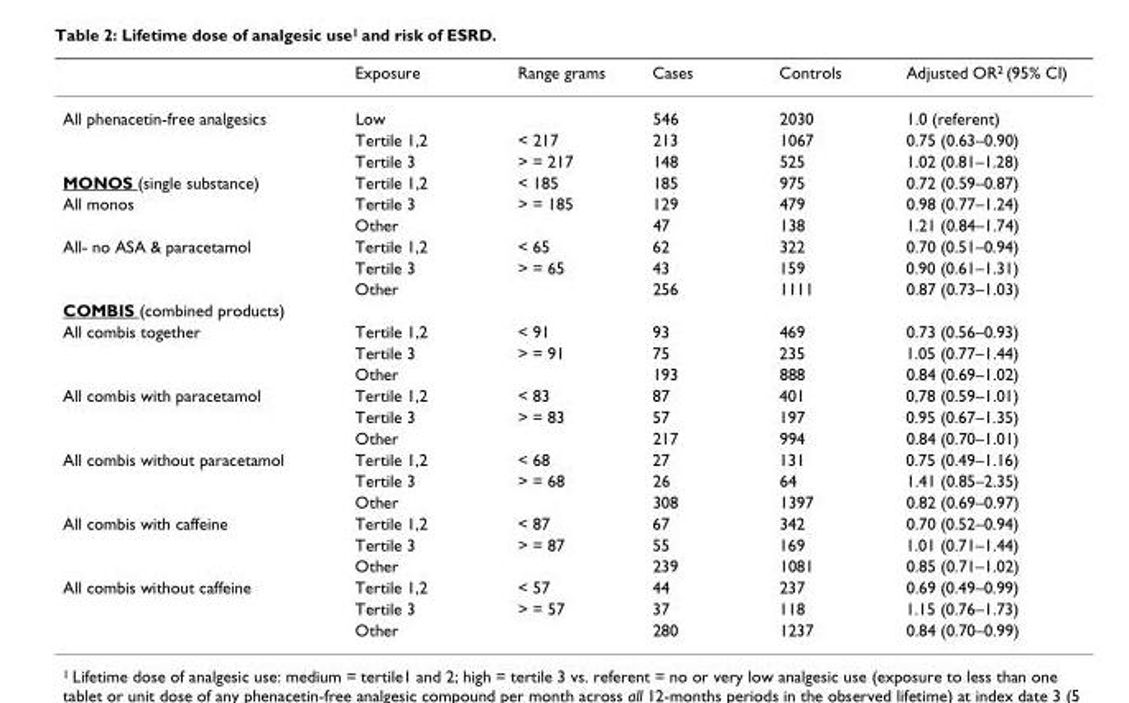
<table><thead><tr><td></td><td>Exposure</td><td>Range grams</td><td>Cases</td><td>Controls</td><td>Adjusted OR<sup>2</sup> (95% CI)</td></tr></thead><tbody><tr><td rowspan="3">All phenacetin-free analgesics</td><td>Low</td><td></td><td>546</td><td>2030</td><td>1.0 (referent)</td></tr><tr><td>Tertile 1,2</td><td>&lt; 217</td><td>213</td><td>1067</td><td>0.75 (0.63–0.90)</td></tr><tr><td>Tertile 3</td><td>&gt; = 217</td><td>148</td><td>525</td><td>1.02 (0.81–1.28)</td></tr><tr><td>MONOS (single substance)</td><td>Tertile 1,2</td><td>&lt; 185</td><td>185</td><td>975</td><td>0.72 (0.59–0.87)</td></tr><tr><td rowspan="2">All monos</td><td>Tertile 3</td><td>&gt; = 185</td><td>129</td><td>479</td><td>0.98 (0.77–1.24)</td></tr><tr><td>Other</td><td></td><td>47</td><td>138</td><td>1.21 (0.84–1.74)</td></tr><tr><td rowspan="3">All- no ASA &amp; paracetamol</td><td>Tertile 1,2</td><td>&lt; 65</td><td>62</td><td>322</td><td>0.70 (0.51–0.94)</td></tr><tr><td>Tertile 3</td><td>&gt; = 65</td><td>43</td><td>159</td><td>0.90 (0.61–1.31)</td></tr><tr><td>Other</td><td></td><td>256</td><td>1111</td><td>0.87 (0.73–1.03)</td></tr><tr><td colspan="6">COMBIS (combined products)</td></tr><tr><td rowspan="3">All combis together</td><td>Tertile 1,2</td><td>&lt; 91</td><td>93</td><td>469</td><td>0.73 (0.56–0.93)</td></tr><tr><td>Tertile 3</td><td>&gt; = 91</td><td>75</td><td>235</td><td>1.05 (0.77–1.44)</td></tr><tr><td>Other</td><td></td><td>193</td><td>888</td><td>0.84 (0.69–1.02)</td></tr><tr><td rowspan="3">All combis with paracetamol</td><td>Tertile 1,2</td><td>&lt; 83</td><td>87</td><td>401</td><td>0,78 (0.59–1.01)</td></tr><tr><td>Tertile 3</td><td>&gt; = 83</td><td>57</td><td>197</td><td>0.95 (0.67–1.35)</td></tr><tr><td>Other</td><td></td><td>217</td><td>994</td><td>0.84 (0.70–1.01)</td></tr><tr><td rowspan="3">All combis without paracetamol</td><td>Tertile 1,2</td><td>&lt; 68</td><td>27</td><td>131</td><td>0.75 (0.49–1.16)</td></tr><tr><td>Tertile 3</td><td>&gt; = 68</td><td>26</td><td>64</td><td>1.41 (0.85–2.35)</td></tr><tr><td>Other</td><td></td><td>308</td><td>1397</td><td>0.82 (0.69–0.97)</td></tr><tr><td rowspan="3">All combis with caffeine</td><td>Tertile 1,2</td><td>&lt; 87</td><td>67</td><td>342</td><td>0.70 (0.52–0.94)</td></tr><tr><td>Tertile 3</td><td>&gt; = 87</td><td>55</td><td>169</td><td>1.01 (0.71–1.44)</td></tr><tr><td>Other</td><td></td><td>239</td><td>1081</td><td>0.85 (0.71–1.02)</td></tr><tr><td rowspan="3">All combis without caffeine</td><td>Tertile 1,2</td><td>&lt; 57</td><td>44</td><td>237</td><td>0.69 (0.49–0.99)</td></tr><tr><td>Tertile 3</td><td>&gt; = 57</td><td>37</td><td>118</td><td>1.15 (0.76–1.73)</td></tr><tr><td>Other</td><td></td><td>280</td><td>1237</td><td>0.84 (0.70–0.99)</td></tr></tbody></table>